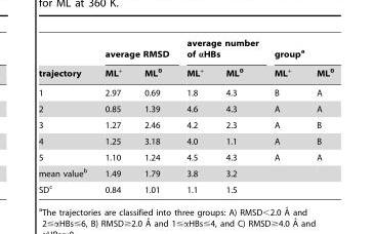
<table><thead><tr><td rowspan="2">trajectory</td><td colspan="2">average RMSD</td><td colspan="2">average number of αHBs</td><td colspan="2">group<sup>a</sup></td></tr><tr><td>ML<sup>+</sup></td><td>ML<sup>0</sup></td><td>ML<sup>+</sup></td><td>ML<sup>0</sup></td><td>ML<sup>+</sup></td><td>ML<sup>0</sup></td></tr></thead><tbody><tr><td>1</td><td>2.97</td><td>0.69</td><td>1.8</td><td>4.3</td><td>B</td><td>A</td></tr><tr><td>2</td><td>0.85</td><td>1.39</td><td>4.6</td><td>4.3</td><td>A</td><td>A</td></tr><tr><td>3</td><td>1.27</td><td>2.46</td><td>4.2</td><td>2.3</td><td>A</td><td>B</td></tr><tr><td>4</td><td>1.25</td><td>3.18</td><td>4.0</td><td>1.1</td><td>A</td><td>B</td></tr><tr><td>5</td><td>1.10</td><td>1.24</td><td>4.5</td><td>4.3</td><td>A</td><td>A</td></tr><tr><td>mean value<sup>b</sup></td><td>1.49</td><td>1.79</td><td>3.8</td><td>3.2</td><td></td><td></td></tr><tr><td>SD<sup>c</sup></td><td>0.84</td><td>1.01</td><td>1.1</td><td>1.5</td><td></td><td></td></tr></tbody></table>